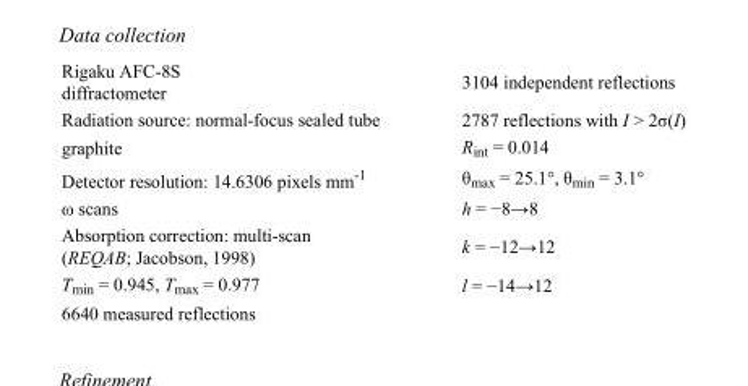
<table><tbody><tr><td>Rigaku AFC-8S diffractometer</td><td>3104 independent reflections</td></tr><tr><td>Radiation source: normal-focus sealed tube</td><td>2787 reflections with I &gt; 2σ(I)</td></tr><tr><td>graphite</td><td>R<sub>int</sub> = 0.014</td></tr><tr><td>Detector resolution: 14.6306 pixels mm<sup>-1</sup></td><td>θ<sub>max</sub> = 25.1°, θ<sub>min</sub> = 3.1°</td></tr><tr><td>ω scans</td><td>h = −8→8</td></tr><tr><td>Absorption correction: multi-scan (REQAB; Jacobson, 1998)</td><td>k = −12→12</td></tr><tr><td>T<sub>min</sub> = 0.945, T<sub>max</sub> = 0.977</td><td>l = −14→12</td></tr><tr><td>6640 measured reflections</td><td></td></tr></tbody></table>